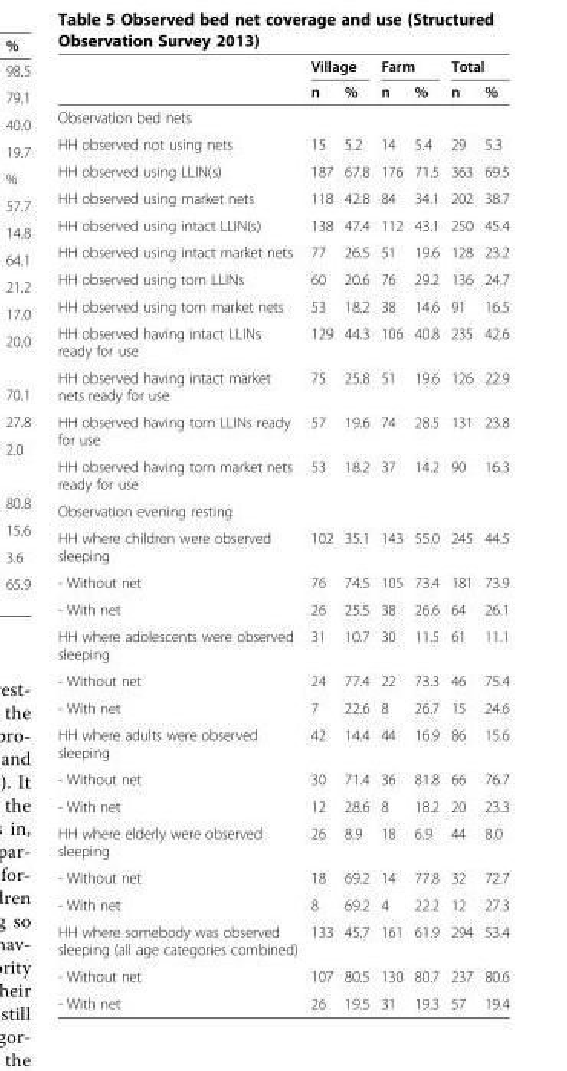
<table><thead><tr><td rowspan="2"></td><td colspan="2">Village</td><td colspan="2">Farm</td><td colspan="2">Total</td></tr><tr><td>n</td><td>%</td><td>n</td><td>%</td><td>n</td><td>%</td></tr></thead><tbody><tr><td colspan="7">Observation bed nets</td></tr><tr><td>HH observed not using nets</td><td>15</td><td>5.2</td><td>14</td><td>5.4</td><td>29</td><td>5.3</td></tr><tr><td>HH observed using LLIN(s)</td><td>187</td><td>67.8</td><td>176</td><td>71.5</td><td>363</td><td>69.5</td></tr><tr><td>HH observed using market nets</td><td>118</td><td>42.8</td><td>84</td><td>34.1</td><td>202</td><td>38.7</td></tr><tr><td>HH observed using intact LLIN(s)</td><td>138</td><td>47.4</td><td>112</td><td>43.1</td><td>250</td><td>45.4</td></tr><tr><td>HH observed using intact market nets</td><td>77</td><td>26.5</td><td>51</td><td>19.6</td><td>128</td><td>23.2</td></tr><tr><td>HH observed using torn LLINs</td><td>60</td><td>20.6</td><td>76</td><td>29.2</td><td>136</td><td>24.7</td></tr><tr><td>HH observed using torn market nets</td><td>53</td><td>18.2</td><td>38</td><td>14.6</td><td>91</td><td>16.5</td></tr><tr><td>HH observed having intact LLINs ready for use</td><td>129</td><td>44.3</td><td>106</td><td>40.8</td><td>235</td><td>42.6</td></tr><tr><td>HH observed having intact market nets ready for use</td><td>75</td><td>25.8</td><td>51</td><td>19.6</td><td>126</td><td>22.9</td></tr><tr><td>HH observed having torn LLINs ready for use</td><td>57</td><td>19.6</td><td>74</td><td>28.5</td><td>131</td><td>23.8</td></tr><tr><td>HH observed having torn market nets ready for use</td><td>53</td><td>18.2</td><td>37</td><td>14.2</td><td>90</td><td>16.3</td></tr><tr><td colspan="7">Observation evening resting</td></tr><tr><td>HH where children were observed sleeping</td><td>102</td><td>35.1</td><td>143</td><td>55.0</td><td>245</td><td>44.5</td></tr><tr><td>- Without net</td><td>76</td><td>74.5</td><td>105</td><td>73.4</td><td>181</td><td>73.9</td></tr><tr><td>- With net</td><td>26</td><td>25.5</td><td>38</td><td>26.6</td><td>64</td><td>26.1</td></tr><tr><td>HH where adolescents were observed sleeping</td><td>31</td><td>10.7</td><td>30</td><td>11.5</td><td>61</td><td>11.1</td></tr><tr><td>- Without net</td><td>24</td><td>77.4</td><td>22</td><td>73.3</td><td>46</td><td>75.4</td></tr><tr><td>- With net</td><td>7</td><td>22.6</td><td>8</td><td>26.7</td><td>15</td><td>24.6</td></tr><tr><td>HH where adults were observed sleeping</td><td>42</td><td>14.4</td><td>44</td><td>16.9</td><td>86</td><td>15.6</td></tr><tr><td>- Without net</td><td>30</td><td>71.4</td><td>36</td><td>81.8</td><td>66</td><td>76.7</td></tr><tr><td>- With net</td><td>12</td><td>28.6</td><td>8</td><td>18.2</td><td>20</td><td>23.3</td></tr><tr><td>HH where elderly were observed sleeping</td><td>26</td><td>8.9</td><td>18</td><td>6.9</td><td>44</td><td>8.0</td></tr><tr><td>- Without net</td><td>18</td><td>69.2</td><td>14</td><td>77.8</td><td>32</td><td>72.7</td></tr><tr><td>- With net</td><td>8</td><td>69.2</td><td>4</td><td>22.2</td><td>12</td><td>27.3</td></tr><tr><td>HH where somebody was observed sleeping (all age categories combined)</td><td>133</td><td>45.7</td><td>161</td><td>61.9</td><td>294</td><td>53.4</td></tr><tr><td>- Without net</td><td>107</td><td>80.5</td><td>130</td><td>80.7</td><td>237</td><td>80.6</td></tr><tr><td>- With net</td><td>26</td><td>19.5</td><td>31</td><td>19.3</td><td>57</td><td>19.4</td></tr></tbody></table>